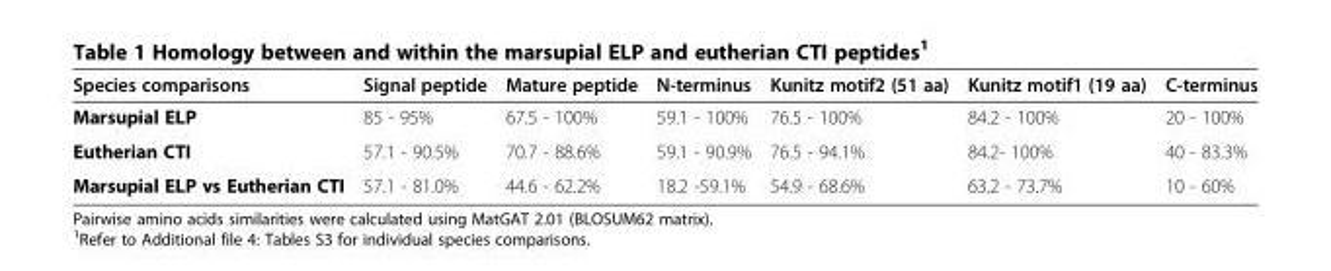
<table><thead><tr><td>Species comparisons</td><td>Signal peptide</td><td>Mature peptide</td><td>N-terminus</td><td>Kunitz motif2 (51 aa)</td><td>Kunitz motif1 (19 aa)</td><td>C-terminus</td></tr></thead><tbody><tr><td>Marsupial ELP</td><td>85 - 95%</td><td>67.5 - 100%</td><td>59.1 - 100%</td><td>76.5 - 100%</td><td>84.2 - 100%</td><td>20 - 100%</td></tr><tr><td>Eutherian CTI</td><td>57.1 - 90.5%</td><td>70.7 - 88.6%</td><td>59.1 - 90.9%</td><td>76.5 - 94.1%</td><td>84.2- 100%</td><td>40 - 83.3%</td></tr><tr><td>Marsupial ELP vs Eutherian CTI</td><td>57.1 - 81.0%</td><td>44.6 - 62.2%</td><td>18.2 -59.1%</td><td>54.9 - 68.6%</td><td>63.2 - 73.7%</td><td>10 - 60%</td></tr></tbody></table>